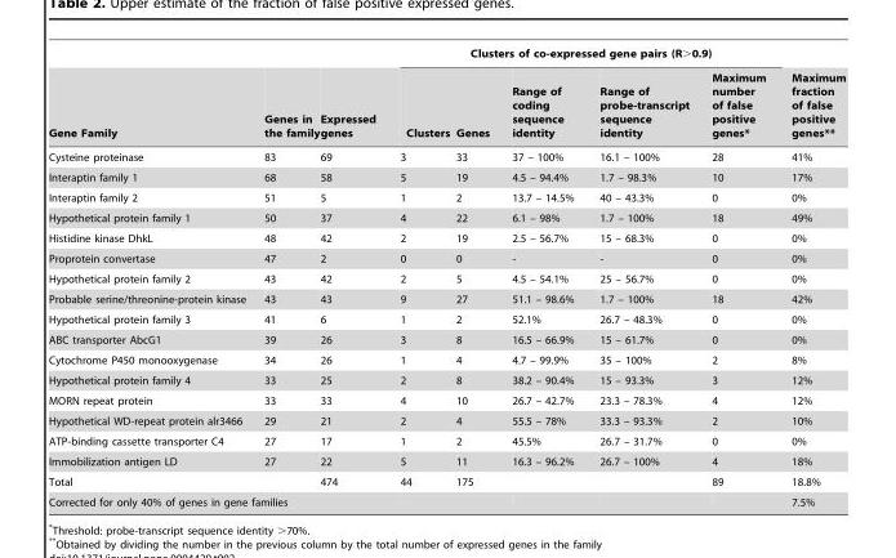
<table><thead><tr><td rowspan="2">Gene Family</td><td rowspan="2">Genes in the family</td><td rowspan="2">Expressed genes</td><td colspan="5">Clusters of co-expressed gene pairs (R&gt;0.9)</td><td rowspan="2">Maximum fraction of false positive genes**</td></tr><tr><td>Clusters</td><td>Genes</td><td>Range of coding sequence identity</td><td>Range of probe-transcript sequence identity</td><td>Maximum number of false positive genes*</td></tr></thead><tbody><tr><td>Cysteine proteinase</td><td>83</td><td>69</td><td>3</td><td>33</td><td>37 – 100%</td><td>16.1 – 100%</td><td>28</td><td>41%</td></tr><tr><td>Interaptin family 1</td><td>68</td><td>58</td><td>5</td><td>19</td><td>4.5 – 94.4%</td><td>1.7 – 98.3%</td><td>10</td><td>17%</td></tr><tr><td>Interaptin family 2</td><td>51</td><td>5</td><td>1</td><td>2</td><td>13.7 – 14.5%</td><td>40 – 43.3%</td><td>0</td><td>0%</td></tr><tr><td>Hypothetical protein family 1</td><td>50</td><td>37</td><td>4</td><td>22</td><td>6.1 – 98%</td><td>1.7 – 100%</td><td>18</td><td>49%</td></tr><tr><td>Histidine kinase DhkL</td><td>48</td><td>42</td><td>2</td><td>19</td><td>2.5 – 56.7%</td><td>15 – 68.3%</td><td>0</td><td>0%</td></tr><tr><td>Proprotein convertase</td><td>47</td><td>2</td><td>0</td><td>0</td><td>-</td><td>-</td><td>0</td><td>0%</td></tr><tr><td>Hypothetical protein family 2</td><td>43</td><td>42</td><td>2</td><td>5</td><td>4.5 – 54.1%</td><td>25 – 56.7%</td><td>0</td><td>0%</td></tr><tr><td>Probable serine/threonine-protein kinase</td><td>43</td><td>43</td><td>9</td><td>27</td><td>51.1 – 98.6%</td><td>1.7 – 100%</td><td>18</td><td>42%</td></tr><tr><td>Hypothetical protein family 3</td><td>41</td><td>6</td><td>1</td><td>2</td><td>52.1%</td><td>26.7 – 48.3%</td><td>0</td><td>0%</td></tr><tr><td>ABC transporter AbcG1</td><td>39</td><td>26</td><td>3</td><td>8</td><td>16.5 – 66.9%</td><td>15 – 61.7%</td><td>0</td><td>0%</td></tr><tr><td>Cytochrome P450 monooxygenase</td><td>34</td><td>26</td><td>1</td><td>4</td><td>4.7 – 99.9%</td><td>35 – 100%</td><td>2</td><td>8%</td></tr><tr><td>Hypothetical protein family 4</td><td>33</td><td>25</td><td>2</td><td>8</td><td>38.2 – 90.4%</td><td>15 – 93.3%</td><td>3</td><td>12%</td></tr><tr><td>MORN repeat protein</td><td>33</td><td>33</td><td>4</td><td>10</td><td>26.7 – 42.7%</td><td>23.3 – 78.3%</td><td>4</td><td>12%</td></tr><tr><td>Hypothetical WD-repeat protein alr3466</td><td>29</td><td>21</td><td>2</td><td>4</td><td>55.5 – 78%</td><td>33.3 – 93.3%</td><td>2</td><td>10%</td></tr><tr><td>ATP-binding cassette transporter C4</td><td>27</td><td>17</td><td>1</td><td>2</td><td>45.5%</td><td>26.7 – 31.7%</td><td>0</td><td>0%</td></tr><tr><td>Immobilization antigen LD</td><td>27</td><td>22</td><td>5</td><td>11</td><td>16.3 – 96.2%</td><td>26.7 – 100%</td><td>4</td><td>18%</td></tr><tr><td>Total</td><td></td><td>474</td><td>44</td><td>175</td><td></td><td></td><td>89</td><td>18.8%</td></tr><tr><td colspan="3">Corrected for only 40% of genes in gene families</td><td></td><td></td><td></td><td></td><td></td><td>7.5%</td></tr></tbody></table>